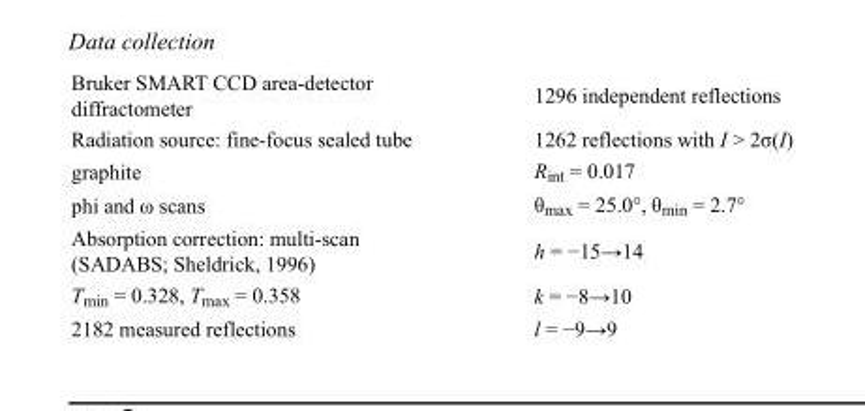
<table><tbody><tr><td>Bruker SMART CCD area-detector diffractometer</td><td>1296 independent reflections</td></tr><tr><td>Radiation source: fine-focus sealed tube</td><td>1262 reflections with I &gt; 2σ(I)</td></tr><tr><td>graphite</td><td>R<sub>int</sub> = 0.017</td></tr><tr><td>phi and ω scans</td><td>θ<sub>max</sub> = 25.0°, θ<sub>min</sub> = 2.7°</td></tr><tr><td>Absorption correction: multi-scan (SADABS; Sheldrick, 1996)</td><td>h = −15→14</td></tr><tr><td>T<sub>min</sub> = 0.328, T<sub>max</sub> = 0.358</td><td>k = −8→10</td></tr><tr><td>2182 measured reflections</td><td>l = −9→9</td></tr></tbody></table>